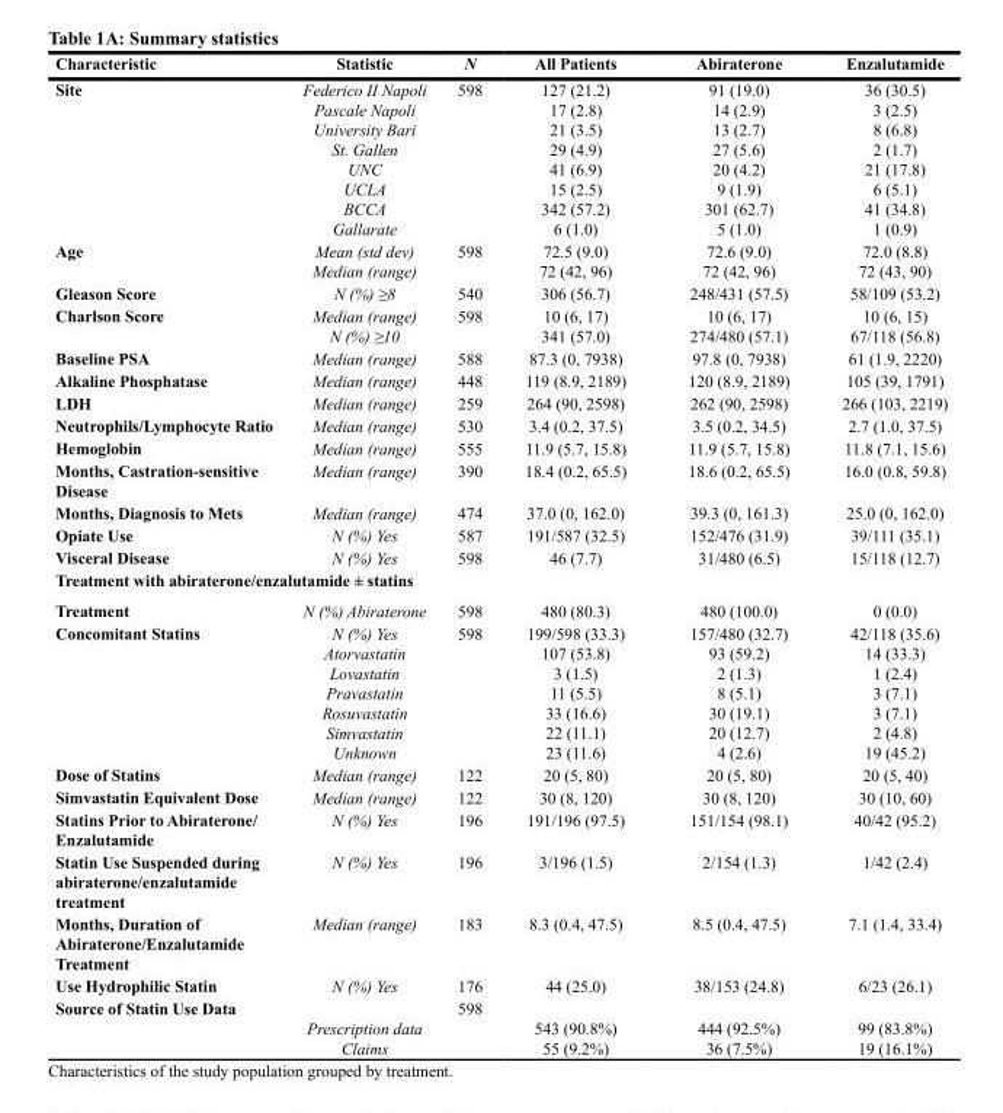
<table><thead><tr><td>Characteristic</td><td>Statistic</td><td>N</td><td>All Patients</td><td>Abiraterone</td><td>Enzalutamide</td></tr></thead><tbody><tr><td>Site</td><td>Federico II Napoli Pascale Napoli University Bari St. Gallen UNC UCLA BCCA Gallarate</td><td>598</td><td>127 (21.2) 17 (2.8) 21 (3.5) 29 (4.9) 41 (6.9) 15 (2.5) 342 (57.2) 6 (1.0)</td><td>91 (19.0) 14 (2.9) 13 (2.7) 27 (5.6) 20 (4.2) 9 (1.9) 301 (62.7) 5 (1.0)</td><td>36 (30.5) 3 (2.5) 8 (6.8) 2 (1.7) 21 (17.8) 6 (5.1) 41 (34.8) 1 (0.9)</td></tr><tr><td>Age</td><td>Mean (std dev) Median (range)</td><td>598</td><td>72.5 (9.0) 72 (42, 96)</td><td>72.6 (9.0) 72 (42, 96)</td><td>72.0 (8.8) 72 (43, 90)</td></tr><tr><td>Gleason Score</td><td>N (%) ≥8</td><td>540</td><td>306 (56.7)</td><td>248/431 (57.5)</td><td>58/109 (53.2)</td></tr><tr><td>Charlson Score</td><td>Median (range) N (%) ≥10</td><td>598</td><td>10 (6, 17) 341 (57.0)</td><td>10 (6, 17) 274/480 (57.1)</td><td>10 (6, 15) 67/118 (56.8)</td></tr><tr><td>Baseline PSA</td><td>Median (range)</td><td>588</td><td>87.3 (0, 7938)</td><td>97.8 (0, 7938)</td><td>61 (1.9, 2220)</td></tr><tr><td>Alkaline Phosphatase</td><td>Median (range)</td><td>448</td><td>119 (8.9, 2189)</td><td>120 (8.9, 2189)</td><td>105 (39, 1791)</td></tr><tr><td>LDH</td><td>Median (range)</td><td>259</td><td>264 (90, 2598)</td><td>262 (90, 2598)</td><td>266 (103, 2219)</td></tr><tr><td>Neutrophils/Lymphocyte Ratio</td><td>Median (range)</td><td>530</td><td>3.4 (0.2, 37.5)</td><td>3.5 (0.2, 34.5)</td><td>2.7 (1.0, 37.5)</td></tr><tr><td>Hemoglobin</td><td>Median (range)</td><td>555</td><td>11.9 (5.7, 15.8)</td><td>11.9 (5.7, 15.8)</td><td>11.8 (7.1, 15.6)</td></tr><tr><td>Months, Castration-sensitive Disease</td><td>Median (range)</td><td>390</td><td>18.4 (0.2, 65.5)</td><td>18.6 (0.2, 65.5)</td><td>16.0 (0.8, 59.8)</td></tr><tr><td>Months, Diagnosis to Mets</td><td>Median (range)</td><td>474</td><td>37.0 (0, 162.0)</td><td>39.3 (0, 161.3)</td><td>25.0 (0, 162.0)</td></tr><tr><td>Opiate Use</td><td>N (%) Yes</td><td>587</td><td>191/587 (32.5)</td><td>152/476 (31.9)</td><td>39/111 (35.1)</td></tr><tr><td>Visceral Disease</td><td>N (%) Yes</td><td>598</td><td>46 (7.7)</td><td>31/480 (6.5)</td><td>15/118 (12.7)</td></tr><tr><td colspan="6">Treatment with abiraterone/enzalutamide ± statins</td></tr><tr><td>Treatment</td><td>N (%) Abiraterone</td><td>598</td><td>480 (80.3)</td><td>480 (100.0)</td><td>0 (0.0)</td></tr><tr><td>Concomitant Statins</td><td>N (%) Yes Atorvastatin Lovastatin Pravastatin Rosuvastatin Simvastatin Unknown</td><td>598</td><td>199/598 (33.3) 107 (53.8) 3 (1.5) 11 (5.5) 33 (16.6) 22 (11.1) 23 (11.6)</td><td>157/480 (32.7) 93 (59.2) 2 (1.3) 8 (5.1) 30 (19.1) 20 (12.7) 4 (2.6)</td><td>42/118 (35.6) 14 (33.3) 1 (2.4) 3 (7.1) 3 (7.1) 2 (4.8) 19 (45.2)</td></tr><tr><td>Dose of Statins</td><td>Median (range)</td><td>122</td><td>20 (5, 80)</td><td>20 (5, 80)</td><td>20 (5, 40)</td></tr><tr><td>Simvastatin Equivalent Dose</td><td>Median (range)</td><td>122</td><td>30 (8, 120)</td><td>30 (8, 120)</td><td>30 (10, 60)</td></tr><tr><td>Statins Prior to Abiraterone/ Enzalutamide</td><td>N (%) Yes</td><td>196</td><td>191/196 (97.5)</td><td>151/154 (98.1)</td><td>40/42 (95.2)</td></tr><tr><td>Statin Use Suspended during abiraterone/enzalutamide treatment</td><td>N (%) Yes</td><td>196</td><td>3/196 (1.5)</td><td>2/154 (1.3)</td><td>1/42 (2.4)</td></tr><tr><td>Months, Duration of Abiraterone/Enzalutamide Treatment</td><td>Median (range)</td><td>183</td><td>8.3 (0.4, 47.5)</td><td>8.5 (0.4, 47.5)</td><td>7.1 (1.4, 33.4)</td></tr><tr><td>Use Hydrophilic Statin</td><td>N (%) Yes</td><td>176</td><td>44 (25.0)</td><td>38/153 (24.8)</td><td>6/23 (26.1)</td></tr><tr><td>Source of Statin Use Data</td><td>Prescription data Claims</td><td>598</td><td>543 (90.8%) 55 (9.2%)</td><td>444 (92.5%) 36 (7.5%)</td><td>99 (83.8%) 19 (16.1%)</td></tr></tbody></table>